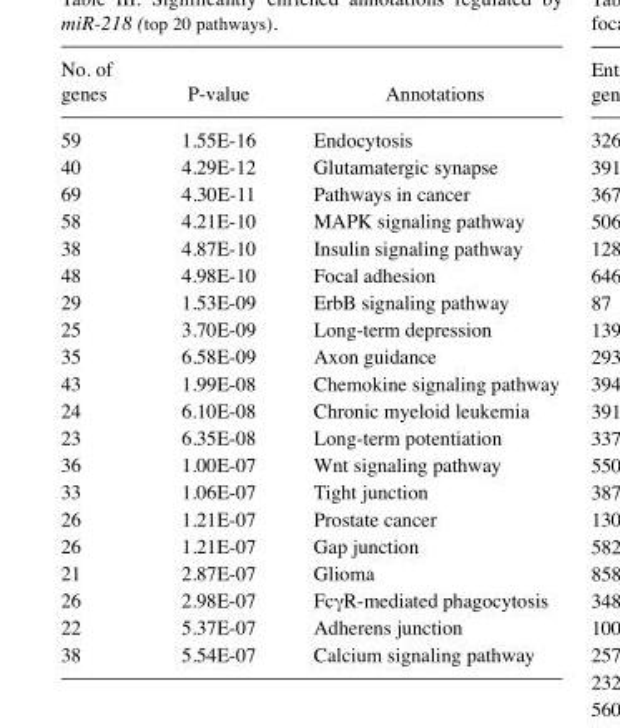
<table><thead><tr><td>No. of genes</td><td>P-value</td><td>Annotations</td></tr></thead><tbody><tr><td>59</td><td>1.55E-16</td><td>Endocytosis</td></tr><tr><td>40</td><td>4.29E-12</td><td>Glutamatergic synapse</td></tr><tr><td>69</td><td>4.30E-11</td><td>Pathways in cancer</td></tr><tr><td>58</td><td>4.21E-10</td><td>MAPK signaling pathway</td></tr><tr><td>38</td><td>4.87E-10</td><td>Insulin signaling pathway</td></tr><tr><td>48</td><td>4.98E-10</td><td>Focal adhesion</td></tr><tr><td>29</td><td>1.53E-09</td><td>ErbB signaling pathway</td></tr><tr><td>25</td><td>3.70E-09</td><td>Long-term depression</td></tr><tr><td>35</td><td>6.58E-09</td><td>Axon guidance</td></tr><tr><td>43</td><td>1.99E-08</td><td>Chemokine signaling pathway</td></tr><tr><td>24</td><td>6.10E-08</td><td>Chronic myeloid leukemia</td></tr><tr><td>23</td><td>6.35E-08</td><td>Long-term potentiation</td></tr><tr><td>36</td><td>1.00E-07</td><td>Wnt signaling pathway</td></tr><tr><td>33</td><td>1.06E-07</td><td>Tight junction</td></tr><tr><td>26</td><td>1.21E-07</td><td>Prostate cancer</td></tr><tr><td>26</td><td>1.21E-07</td><td>Gap junction</td></tr><tr><td>21</td><td>2.87E-07</td><td>Glioma</td></tr><tr><td>26</td><td>2.98E-07</td><td>FcγR-mediated phagocytosis</td></tr><tr><td>22</td><td>5.37E-07</td><td>Adherens junction</td></tr><tr><td>38</td><td>5.54E-07</td><td>Calcium signaling pathway</td></tr></tbody></table>